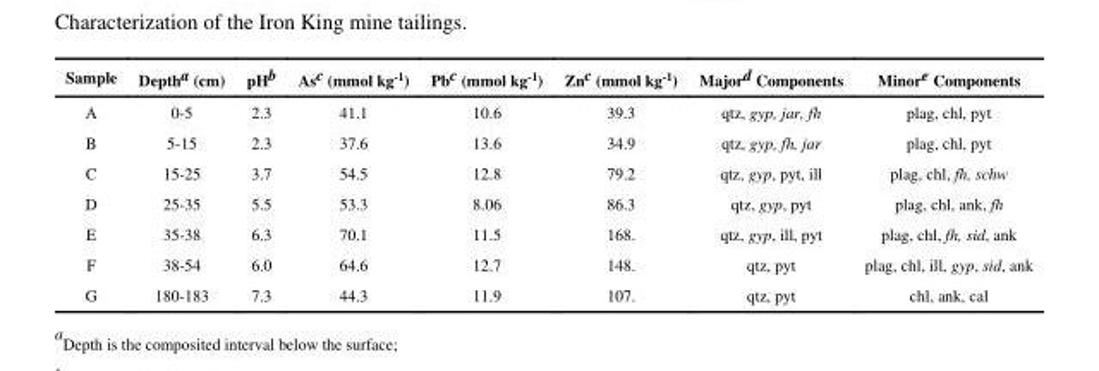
<table><thead><tr><td>Sample</td><td>Depth<sup>a</sup> (cm)</td><td>pH<sup>b</sup></td><td>As<sup>c</sup> (mmol kg<sup>-1</sup>)</td><td>Pb<sup>c</sup> (mmol kg<sup>-1</sup>)</td><td>Zn<sup>c</sup> (mmol kg<sup>-1</sup>)</td><td>Major<sup>d</sup> Components</td><td>Minor<sup>e</sup> Components</td></tr></thead><tbody><tr><td>A</td><td>0-5</td><td>2.3</td><td>41.1</td><td>10.6</td><td>39.3</td><td>qtz, gyp, jar, fh</td><td>plag, chl, pyt</td></tr><tr><td>B</td><td>5-15</td><td>2.3</td><td>37.6</td><td>13.6</td><td>34.9</td><td>qtz, gyp, fh, jar</td><td>plag, chl, pyt</td></tr><tr><td>C</td><td>15-25</td><td>3.7</td><td>54.5</td><td>12.8</td><td>79.2</td><td>qtz, gyp, pyt, ill</td><td>plag, chl, fh, schw</td></tr><tr><td>D</td><td>25-35</td><td>5.5</td><td>53.3</td><td>8.06</td><td>86.3</td><td>qtz, gyp, pyt</td><td>plag, chl, ank, fh</td></tr><tr><td>E</td><td>35-38</td><td>6.3</td><td>70.1</td><td>11.5</td><td>168.</td><td>qtz, gyp, ill, pyt</td><td>plag, chl, fh, sid, ank</td></tr><tr><td>F</td><td>38-54</td><td>6.0</td><td>64.6</td><td>12.7</td><td>148.</td><td>qtz, pyt</td><td>plag, chl, ill, gyp, sid, ank</td></tr><tr><td>G</td><td>180-183</td><td>7.3</td><td>44.3</td><td>11.9</td><td>107.</td><td>qtz, pyt</td><td>chl, ank, cal</td></tr></tbody></table>